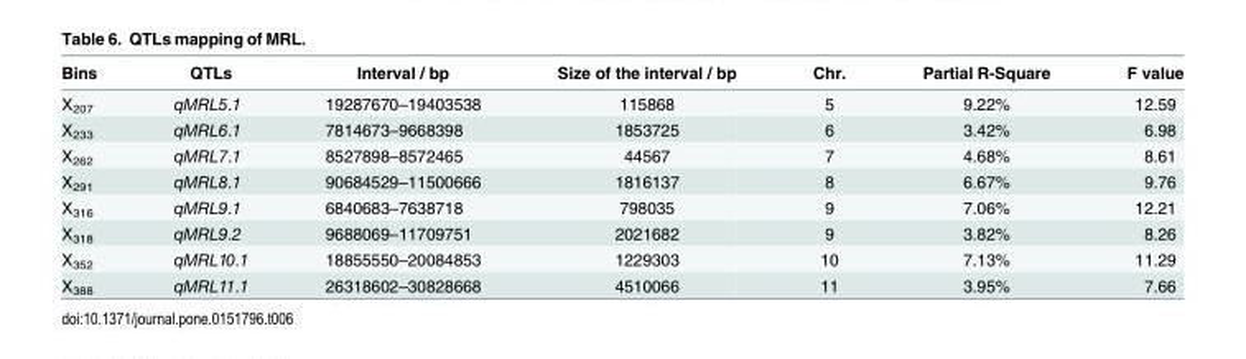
<table><thead><tr><td>Bins</td><td>QTLs</td><td>Interval / bp</td><td>Size of the interval / bp</td><td>Chr.</td><td>Partial R-Square</td><td>F value</td></tr></thead><tbody><tr><td>X<sub>207</sub></td><td>qMRL5.1</td><td>19287670–19403538</td><td>115868</td><td>5</td><td>9.22%</td><td>12.59</td></tr><tr><td>X<sub>233</sub></td><td>qMRL6.1</td><td>7814673–9668398</td><td>1853725</td><td>6</td><td>3.42%</td><td>6.98</td></tr><tr><td>X<sub>262</sub></td><td>qMRL7.1</td><td>8527898–8572465</td><td>44567</td><td>7</td><td>4.68%</td><td>8.61</td></tr><tr><td>X<sub>291</sub></td><td>qMRL8.1</td><td>90684529–11500666</td><td>1816137</td><td>8</td><td>6.67%</td><td>9.76</td></tr><tr><td>X<sub>316</sub></td><td>qMRL9.1</td><td>6840683–7638718</td><td>798035</td><td>9</td><td>7.06%</td><td>12.21</td></tr><tr><td>X<sub>318</sub></td><td>qMRL9.2</td><td>9688069–11709751</td><td>2021682</td><td>9</td><td>3.82%</td><td>8.26</td></tr><tr><td>X<sub>352</sub></td><td>qMRL10.1</td><td>18855550–20084853</td><td>1229303</td><td>10</td><td>7.13%</td><td>11.29</td></tr><tr><td>X<sub>388</sub></td><td>qMRL11.1</td><td>26318602–30828668</td><td>4510066</td><td>11</td><td>3.95%</td><td>7.66</td></tr></tbody></table>